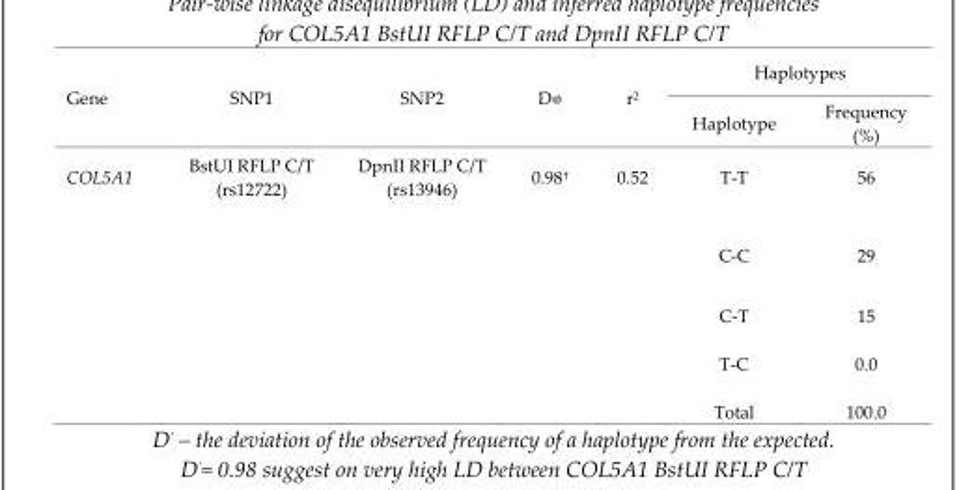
<table><thead><tr><td rowspan="2">Gene</td><td rowspan="2">SNP1</td><td rowspan="2">SNP2</td><td rowspan="2">D�</td><td rowspan="2">r<sup>2</sup></td><td colspan="2">Haplotypes</td></tr><tr><td>Haplotype</td><td>Frequency (%)</td></tr></thead><tbody><tr><td rowspan="5">COL5A1</td><td>BstUI RFLP C/T (rs12722)</td><td>DpnII RFLP C/T (rs13946)</td><td>0.98<sup>†</sup></td><td>0.52</td><td>T-T</td><td>56</td></tr><tr><td></td><td></td><td></td><td></td><td>C-C</td><td>29</td></tr><tr><td></td><td></td><td></td><td></td><td>C-T</td><td>15</td></tr><tr><td></td><td></td><td></td><td></td><td>T-C</td><td>0.0</td></tr><tr><td></td><td></td><td></td><td></td><td>Total</td><td>100.0</td></tr></tbody></table>